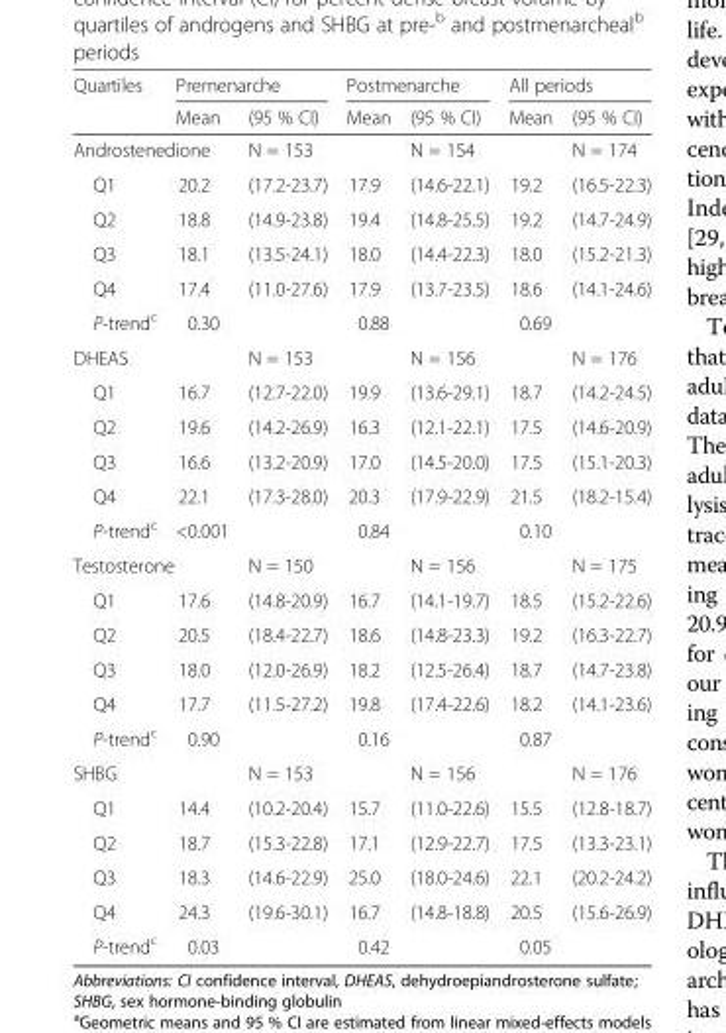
<table><thead><tr><td rowspan="2">Quartiles</td><td colspan="2">Premenarche</td><td colspan="2">Postmenarche</td><td colspan="2">All periods</td></tr><tr><td>Mean</td><td>(95 % CI)</td><td>Mean</td><td>(95 % CI)</td><td>Mean</td><td>(95 % CI)</td></tr></thead><tbody><tr><td colspan="2">Androstenedione</td><td>N = 153</td><td></td><td>N = 154</td><td></td><td>N = 174</td></tr><tr><td>Q1</td><td>20.2</td><td>(17.2-23.7)</td><td>17.9</td><td>(14.6-22.1)</td><td>19.2</td><td>(16.5-22.3)</td></tr><tr><td>Q2</td><td>18.8</td><td>(14.9-23.8)</td><td>19.4</td><td>(14.8-25.5)</td><td>19.2</td><td>(14.7-24.9)</td></tr><tr><td>Q3</td><td>18.1</td><td>(13.5-24.1)</td><td>18.0</td><td>(14.4-22.3)</td><td>18.0</td><td>(15.2-21.3)</td></tr><tr><td>Q4</td><td>17.4</td><td>(11.0-27.6)</td><td>17.9</td><td>(13.7-23.5)</td><td>18.6</td><td>(14.1-24.6)</td></tr><tr><td>P-trend<sup>c</sup></td><td>0.30</td><td></td><td>0.88</td><td></td><td>0.69</td><td></td></tr><tr><td colspan="2">DHEAS</td><td>N = 153</td><td></td><td>N = 156</td><td></td><td>N = 176</td></tr><tr><td>Q1</td><td>16.7</td><td>(12.7-22.0)</td><td>19.9</td><td>(13.6-29.1)</td><td>18.7</td><td>(14.2-24.5)</td></tr><tr><td>Q2</td><td>19.6</td><td>(14.2-26.9)</td><td>16.3</td><td>(12.1-22.1)</td><td>17.5</td><td>(14.6-20.9)</td></tr><tr><td>Q3</td><td>16.6</td><td>(13.2-20.9)</td><td>17.0</td><td>(14.5-20.0)</td><td>17.5</td><td>(15.1-20.3)</td></tr><tr><td>Q4</td><td>22.1</td><td>(17.3-28.0)</td><td>20.3</td><td>(17.9-22.9)</td><td>21.5</td><td>(18.2-15.4)</td></tr><tr><td>P-trend<sup>c</sup></td><td>&lt;0.001</td><td></td><td>0.84</td><td></td><td>0.10</td><td></td></tr><tr><td colspan="2">Testosterone</td><td>N = 150</td><td></td><td>N = 156</td><td></td><td>N = 175</td></tr><tr><td>Q1</td><td>17.6</td><td>(14.8-20.9)</td><td>16.7</td><td>(14.1-19.7)</td><td>18.5</td><td>(15.2-22.6)</td></tr><tr><td>Q2</td><td>20.5</td><td>(18.4-22.7)</td><td>18.6</td><td>(14.8-23.3)</td><td>19.2</td><td>(16.3-22.7)</td></tr><tr><td>Q3</td><td>18.0</td><td>(12.0-26.9)</td><td>18.2</td><td>(12.5-26.4)</td><td>18.7</td><td>(14.7-23.8)</td></tr><tr><td>Q4</td><td>17.7</td><td>(11.5-27.2)</td><td>19.8</td><td>(17.4-22.6)</td><td>18.2</td><td>(14.1-23.6)</td></tr><tr><td>P-trend<sup>c</sup></td><td>0.90</td><td></td><td>0.16</td><td></td><td>0.87</td><td></td></tr><tr><td colspan="2">SHBG</td><td>N = 153</td><td></td><td>N = 156</td><td></td><td>N = 176</td></tr><tr><td>Q1</td><td>14.4</td><td>(10.2-20.4)</td><td>15.7</td><td>(11.0-22.6)</td><td>15.5</td><td>(12.8-18.7)</td></tr><tr><td>Q2</td><td>18.7</td><td>(15.3-22.8)</td><td>17.1</td><td>(12.9-22.7)</td><td>17.5</td><td>(13.3-23.1)</td></tr><tr><td>Q3</td><td>18.3</td><td>(14.6-22.9)</td><td>25.0</td><td>(18.0-24.6)</td><td>22.1</td><td>(20.2-24.2)</td></tr><tr><td>Q4</td><td>24.3</td><td>(19.6-30.1)</td><td>16.7</td><td>(14.8-18.8)</td><td>20.5</td><td>(15.6-26.9)</td></tr><tr><td>P-trend<sup>c</sup></td><td>0.03</td><td></td><td>0.42</td><td></td><td>0.05</td><td></td></tr></tbody></table>